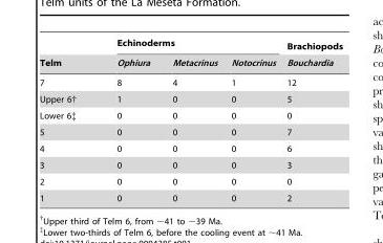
<table><thead><tr><td rowspan="2">Telm</td><td colspan="3">Echinoderms</td><td rowspan="2">Brachiopods Bouchardia</td></tr><tr><td>Ophiura</td><td>Metacrinus</td><td>Notocrinus</td></tr></thead><tbody><tr><td>7</td><td>8</td><td>4</td><td>1</td><td>12</td></tr><tr><td>Upper 6†</td><td>1</td><td>0</td><td>0</td><td>5</td></tr><tr><td>Lower 6‡</td><td>0</td><td>0</td><td>0</td><td>0</td></tr><tr><td>5</td><td>0</td><td>0</td><td>0</td><td>7</td></tr><tr><td>4</td><td>0</td><td>0</td><td>0</td><td>6</td></tr><tr><td>3</td><td>0</td><td>0</td><td>0</td><td>3</td></tr><tr><td>2</td><td>0</td><td>0</td><td>0</td><td>0</td></tr><tr><td>1</td><td>0</td><td>0</td><td>0</td><td>2</td></tr></tbody></table>